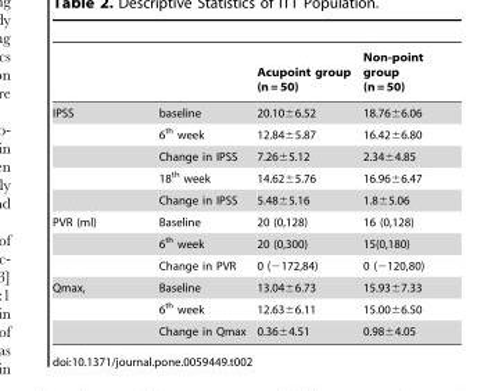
<table><thead><tr><td></td><td></td><td>Acupoint group (n = 50)</td><td>Non-point group (n = 50)</td></tr></thead><tbody><tr><td rowspan="5">IPSS</td><td>baseline</td><td>20.10±6.52</td><td>18.76±6.06</td></tr><tr><td>6<sup>th</sup> week</td><td>12.84±5.87</td><td>16.42±6.80</td></tr><tr><td>Change in IPSS</td><td>7.26±5.12</td><td>2.34±4.85</td></tr><tr><td>18<sup>th</sup> week</td><td>14.62±5.76</td><td>16.96±6.47</td></tr><tr><td>Change in IPSS</td><td>5.48±5.16</td><td>1.8±5.06</td></tr><tr><td rowspan="3">PVR (ml)</td><td>Baseline</td><td>20 (0,128)</td><td>16 (0,128)</td></tr><tr><td>6<sup>th</sup> week</td><td>20 (0,300)</td><td>15(0,180)</td></tr><tr><td>Change in PVR</td><td>0 (−172,84)</td><td>0 (−120,80)</td></tr><tr><td rowspan="3">Qmax,</td><td>Baseline</td><td>13.04±6.73</td><td>15.93±7.33</td></tr><tr><td>6<sup>th</sup> week</td><td>12.63±6.11</td><td>15.00±6.50</td></tr><tr><td>Change in Qmax</td><td>0.36±4.51</td><td>0.98±4.05</td></tr></tbody></table>